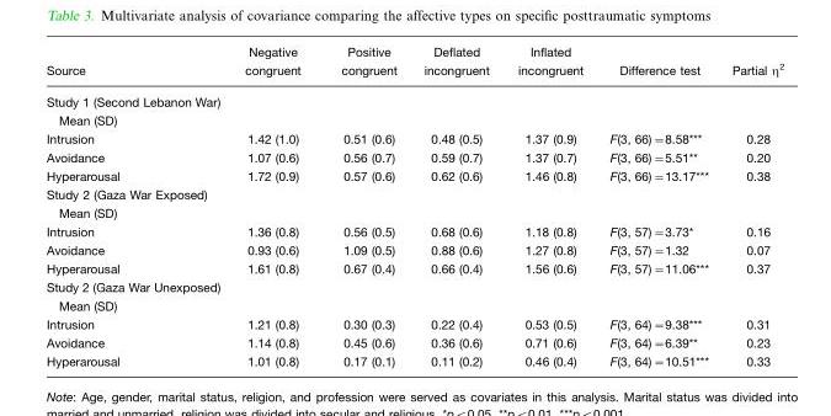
<table><thead><tr><td>Source</td><td>Negative congruent</td><td>Positive congruent</td><td>Deflated incongruent</td><td>Inflated incongruent</td><td>Difference test</td><td>Partial η<sup>2</sup></td></tr></thead><tbody><tr><td colspan="7">Study 1 (Second Lebanon War)</td></tr><tr><td colspan="7">Mean (SD)</td></tr><tr><td>Intrusion</td><td>1.42 (1.0)</td><td>0.51 (0.6)</td><td>0.48 (0.5)</td><td>1.37 (0.9)</td><td>F(3, 66)=8.58***</td><td>0.28</td></tr><tr><td>Avoidance</td><td>1.07 (0.6)</td><td>0.56 (0.7)</td><td>0.59 (0.7)</td><td>1.37 (0.7)</td><td>F(3, 66)=5.51**</td><td>0.20</td></tr><tr><td>Hyperarousal</td><td>1.72 (0.9)</td><td>0.57 (0.6)</td><td>0.62 (0.6)</td><td>1.46 (0.8)</td><td>F(3, 66)=13.17***</td><td>0.38</td></tr><tr><td colspan="7">Study 2 (Gaza War Exposed)</td></tr><tr><td colspan="7">Mean (SD)</td></tr><tr><td>Intrusion</td><td>1.36 (0.8)</td><td>0.56 (0.5)</td><td>0.68 (0.6)</td><td>1.18 (0.8)</td><td>F(3, 57)=3.73*</td><td>0.16</td></tr><tr><td>Avoidance</td><td>0.93 (0.6)</td><td>1.09 (0.5)</td><td>0.88 (0.6)</td><td>1.27 (0.8)</td><td>F(3, 57)=1.32</td><td>0.07</td></tr><tr><td>Hyperarousal</td><td>1.61 (0.8)</td><td>0.67 (0.4)</td><td>0.66 (0.4)</td><td>1.56 (0.6)</td><td>F(3, 57)=11.06***</td><td>0.37</td></tr><tr><td colspan="7">Study 2 (Gaza War Unexposed)</td></tr><tr><td colspan="7">Mean (SD)</td></tr><tr><td>Intrusion</td><td>1.21 (0.8)</td><td>0.30 (0.3)</td><td>0.22 (0.4)</td><td>0.53 (0.5)</td><td>F(3, 64)=9.38***</td><td>0.31</td></tr><tr><td>Avoidance</td><td>1.14 (0.8)</td><td>0.45 (0.6)</td><td>0.36 (0.6)</td><td>0.71 (0.6)</td><td>F(3, 64)=6.39**</td><td>0.23</td></tr><tr><td>Hyperarousal</td><td>1.01 (0.8)</td><td>0.17 (0.1)</td><td>0.11 (0.2)</td><td>0.46 (0.4)</td><td>F(3, 64)=10.51***</td><td>0.33</td></tr></tbody></table>